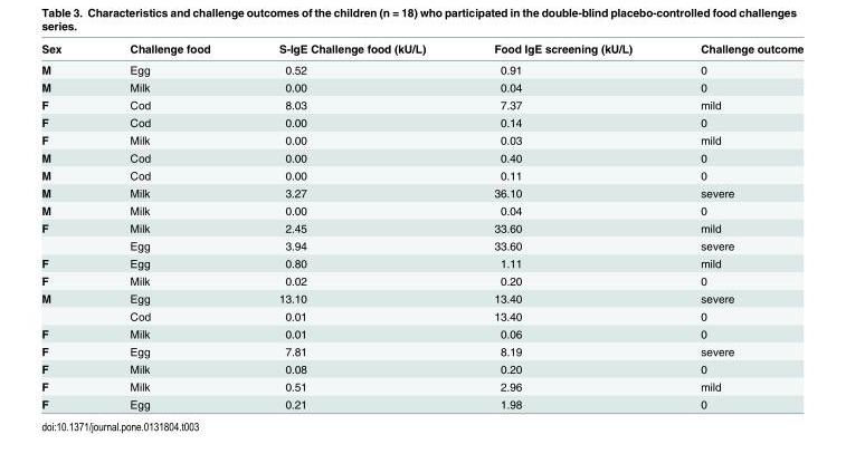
<table><thead><tr><td>Sex</td><td>Challenge food</td><td>S-IgE Challenge food (kU/L)</td><td>Food IgE screening (kU/L)</td><td>Challenge outcome</td></tr></thead><tbody><tr><td>M</td><td>Egg</td><td>0.52</td><td>0.91</td><td>0</td></tr><tr><td>M</td><td>Milk</td><td>0.00</td><td>0.04</td><td>0</td></tr><tr><td>F</td><td>Cod</td><td>8.03</td><td>7.37</td><td>mild</td></tr><tr><td>F</td><td>Cod</td><td>0.00</td><td>0.14</td><td>0</td></tr><tr><td>F</td><td>Milk</td><td>0.00</td><td>0.03</td><td>mild</td></tr><tr><td>M</td><td>Cod</td><td>0.00</td><td>0.40</td><td>0</td></tr><tr><td>M</td><td>Cod</td><td>0.00</td><td>0.11</td><td>0</td></tr><tr><td>M</td><td>Milk</td><td>3.27</td><td>36.10</td><td>severe</td></tr><tr><td>M</td><td>Milk</td><td>0.00</td><td>0.04</td><td>0</td></tr><tr><td rowspan="2">F</td><td>Milk</td><td>2.45</td><td>33.60</td><td>mild</td></tr><tr><td>Egg</td><td>3.94</td><td>33.60</td><td>severe</td></tr><tr><td>F</td><td>Egg</td><td>0.80</td><td>1.11</td><td>mild</td></tr><tr><td>F</td><td>Milk</td><td>0.02</td><td>0.20</td><td>0</td></tr><tr><td rowspan="2">M</td><td>Egg</td><td>13.10</td><td>13.40</td><td>severe</td></tr><tr><td>Cod</td><td>0.01</td><td>13.40</td><td>0</td></tr><tr><td>F</td><td>Milk</td><td>0.01</td><td>0.06</td><td>0</td></tr><tr><td>F</td><td>Egg</td><td>7.81</td><td>8.19</td><td>severe</td></tr><tr><td>F</td><td>Milk</td><td>0.08</td><td>0.20</td><td>0</td></tr><tr><td>F</td><td>Milk</td><td>0.51</td><td>2.96</td><td>mild</td></tr><tr><td>F</td><td>Egg</td><td>0.21</td><td>1.98</td><td>0</td></tr></tbody></table>